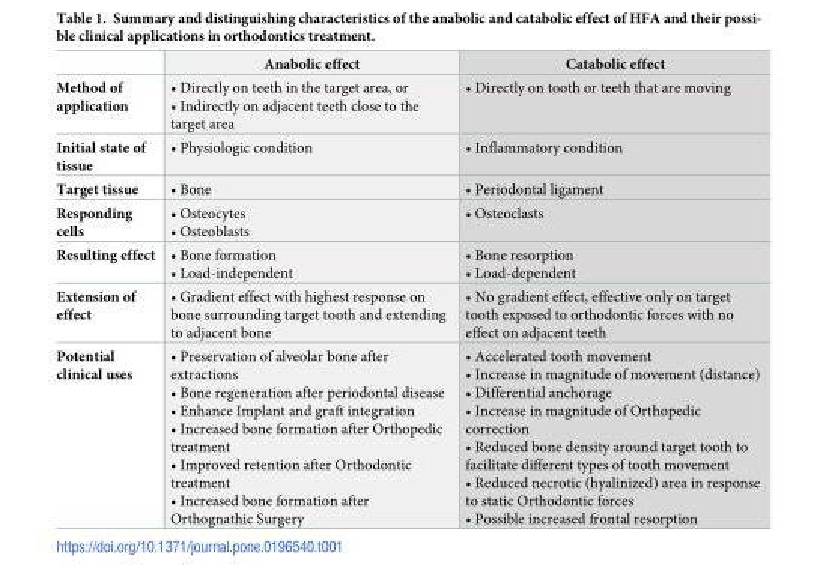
<table><thead><tr><td></td><td>Anabolic effect</td><td>Catabolic effect</td></tr></thead><tbody><tr><td>Method of application</td><td>• Directly on teeth in the target area, or • Indirectly on adjacent teeth close to the target area</td><td>• Directly on tooth or teeth that are moving</td></tr><tr><td>Initial state of tissue</td><td>• Physiologic condition</td><td>• Inflammatory condition</td></tr><tr><td>Target tissue</td><td>• Bone</td><td>• Periodontal ligament</td></tr><tr><td>Responding cells</td><td>• Osteocytes • Osteoblasts</td><td>• Osteoclasts</td></tr><tr><td>Resulting effect</td><td>• Bone formation • Load-independent</td><td>• Bone resorption • Load-dependent</td></tr><tr><td>Extension of effect</td><td>• Gradient effect with highest response on bone surrounding target tooth and extending to adjacent bone</td><td>• No gradient effect, effective only on target tooth exposed to orthodontic forces with no effect on adjacent teeth</td></tr><tr><td>Potential clinical uses</td><td>• Preservation of alveolar bone after extractions • Bone regeneration after periodontal disease • Enhance Implant and graft integration • Increased bone formation after Orthopedic treatment • Improved retention after Orthodontic treatment • Increased bone formation after Orthognathic Surgery</td><td>• Accelerated tooth movement • Increase in magnitude of movement (distance) • Differential anchorage • Increase in magnitude of Orthopedic correction • Reduced bone density around target tooth to facilitate different types of tooth movement • Reduced necrotic (hyalinized) area in response to static Orthodontic forces • Possible increased frontal resorption</td></tr></tbody></table>